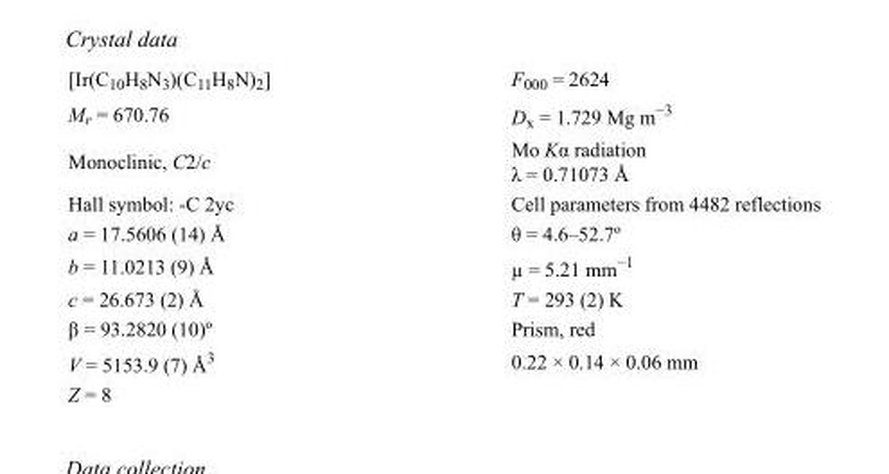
<table><tbody><tr><td>[Ir(C<sub>10</sub>H<sub>8</sub>N<sub>3</sub>)(C<sub>11</sub>H<sub>8</sub>N)<sub>2</sub>]</td><td>F<sub>000</sub> = 2624</td></tr><tr><td>M<sub>r</sub> = 670.76</td><td>D<sub>x</sub> = 1.729 Mg m<sup>−3</sup></td></tr><tr><td>Monoclinic, C2/c</td><td>Mo Kα radiation λ = 0.71073 Å</td></tr><tr><td>Hall symbol: -C 2yc</td><td>Cell parameters from 4482 reflections</td></tr><tr><td>a = 17.5606 (14) Å</td><td>θ = 4.6–52.7º</td></tr><tr><td>b = 11.0213 (9) Å</td><td>µ = 5.21 mm<sup>−1</sup></td></tr><tr><td>c = 26.673 (2) Å</td><td>T = 293 (2) K</td></tr><tr><td>β = 93.2820 (10)º</td><td>Prism, red</td></tr><tr><td>V = 5153.9 (7) Å<sup>3</sup></td><td>0.22 × 0.14 × 0.06 mm</td></tr><tr><td>Z = 8</td><td></td></tr></tbody></table>